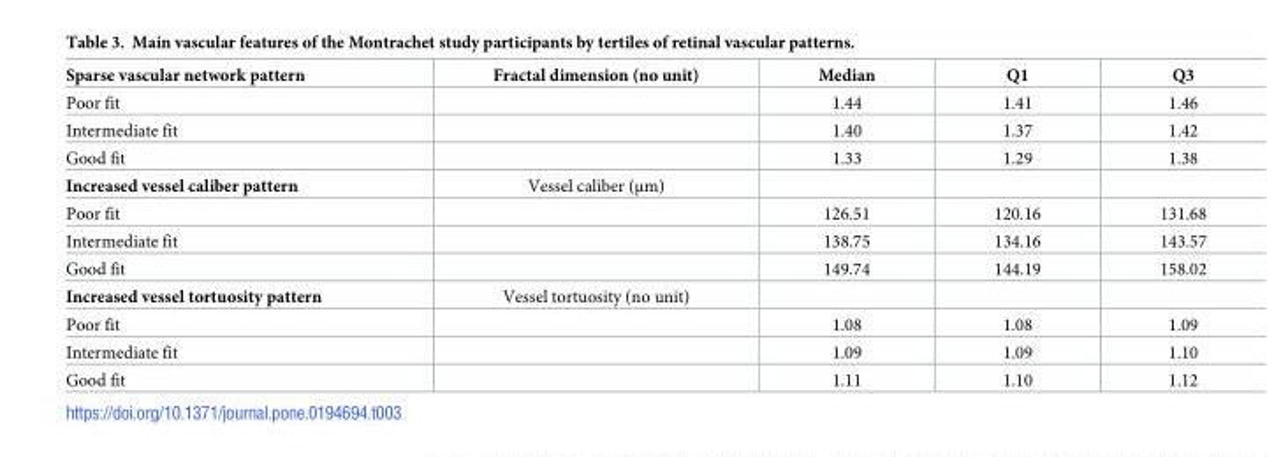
<table><thead><tr><td>Sparse vascular network pattern</td><td>Fractal dimension (no unit)</td><td>Median</td><td>Q1</td><td>Q3</td></tr></thead><tbody><tr><td>Poor fit</td><td></td><td>1.44</td><td>1.41</td><td>1.46</td></tr><tr><td>Intermediate fit</td><td></td><td>1.40</td><td>1.37</td><td>1.42</td></tr><tr><td>Good fit</td><td></td><td>1.33</td><td>1.29</td><td>1.38</td></tr><tr><td>Increased vessel caliber pattern</td><td>Vessel caliber (μm)</td><td></td><td></td><td></td></tr><tr><td>Poor fit</td><td></td><td>126.51</td><td>120.16</td><td>131.68</td></tr><tr><td>Intermediate fit</td><td></td><td>138.75</td><td>134.16</td><td>143.57</td></tr><tr><td>Good fit</td><td></td><td>149.74</td><td>144.19</td><td>158.02</td></tr><tr><td>Increased vessel tortuosity pattern</td><td>Vessel tortuosity (no unit)</td><td></td><td></td><td></td></tr><tr><td>Poor fit</td><td></td><td>1.08</td><td>1.08</td><td>1.09</td></tr><tr><td>Intermediate fit</td><td></td><td>1.09</td><td>1.09</td><td>1.10</td></tr><tr><td>Good fit</td><td></td><td>1.11</td><td>1.10</td><td>1.12</td></tr></tbody></table>